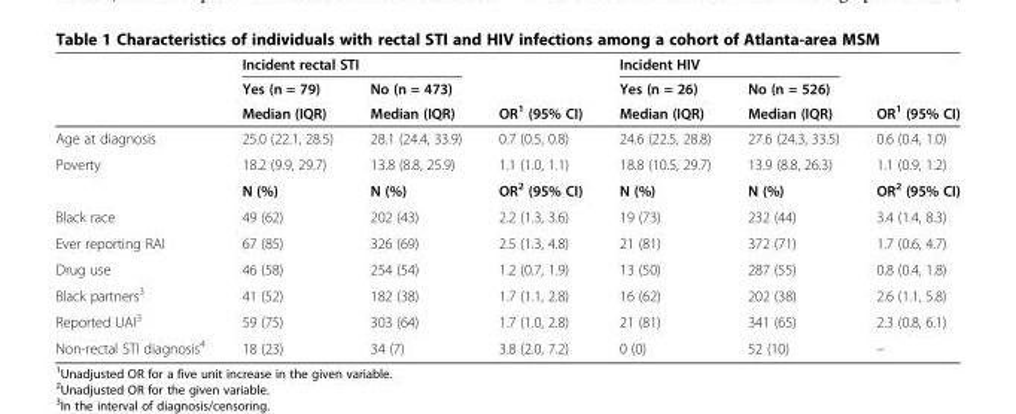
<table><thead><tr><td rowspan="3"></td><td colspan="2">Incident rectal STI</td><td rowspan="3">OR<sup>1</sup> (95% CI)</td><td colspan="2">Incident HIV</td><td rowspan="3">OR<sup>1</sup> (95% CI)</td></tr><tr><td rowspan="2">Yes (n = 79) Median (IQR)</td><td rowspan="2">No (n = 473) Median (IQR)</td><td rowspan="2">Yes (n = 26) Median (IQR)</td><td rowspan="2">No (n = 526) Median (IQR)</td></tr><tr></tr></thead><tbody><tr><td>Age at diagnosis</td><td>25.0 (22.1, 28.5)</td><td>28.1 (24.4, 33.9)</td><td>0.7 (0.5, 0.8)</td><td>24.6 (22.5, 28.8)</td><td>27.6 (24.3, 33.5)</td><td>0.6 (0.4, 1.0)</td></tr><tr><td rowspan="2">Poverty</td><td>18.2 (9.9, 29.7)</td><td>13.8 (8.8, 25.9)</td><td>1.1 (1.0, 1.1)</td><td>18.8 (10.5, 29.7)</td><td>13.9 (8.8, 26.3)</td><td>1.1 (0.9, 1.2)</td></tr><tr><td>N (%)</td><td>N (%)</td><td>OR<sup>2</sup> (95% CI)</td><td>N (%)</td><td>N (%)</td><td>OR<sup>2</sup> (95% CI)</td></tr><tr><td>Black race</td><td>49 (62)</td><td>202 (43)</td><td>2.2 (1.3, 3.6)</td><td>19 (73)</td><td>232 (44)</td><td>3.4 (1.4, 8.3)</td></tr><tr><td>Ever reporting RAI</td><td>67 (85)</td><td>326 (69)</td><td>2.5 (1.3, 4.8)</td><td>21 (81)</td><td>372 (71)</td><td>1.7 (0.6, 4.7)</td></tr><tr><td>Drug use</td><td>46 (58)</td><td>254 (54)</td><td>1.2 (0.7, 1.9)</td><td>13 (50)</td><td>287 (55)</td><td>0.8 (0.4, 1.8)</td></tr><tr><td>Black partners<sup>3</sup></td><td>41 (52)</td><td>182 (38)</td><td>1.7 (1.1, 2.8)</td><td>16 (62)</td><td>202 (38)</td><td>2.6 (1.1, 5.8)</td></tr><tr><td>Reported UAI<sup>3</sup></td><td>59 (75)</td><td>303 (64)</td><td>1.7 (1.0, 2.8)</td><td>21 (81)</td><td>341 (65)</td><td>2.3 (0.8, 6.1)</td></tr><tr><td>Non-rectal STI diagnosis<sup>4</sup></td><td>18 (23)</td><td>34 (7)</td><td>3.8 (2.0, 7.2)</td><td>0 (0)</td><td>52 (10)</td><td>–</td></tr></tbody></table>